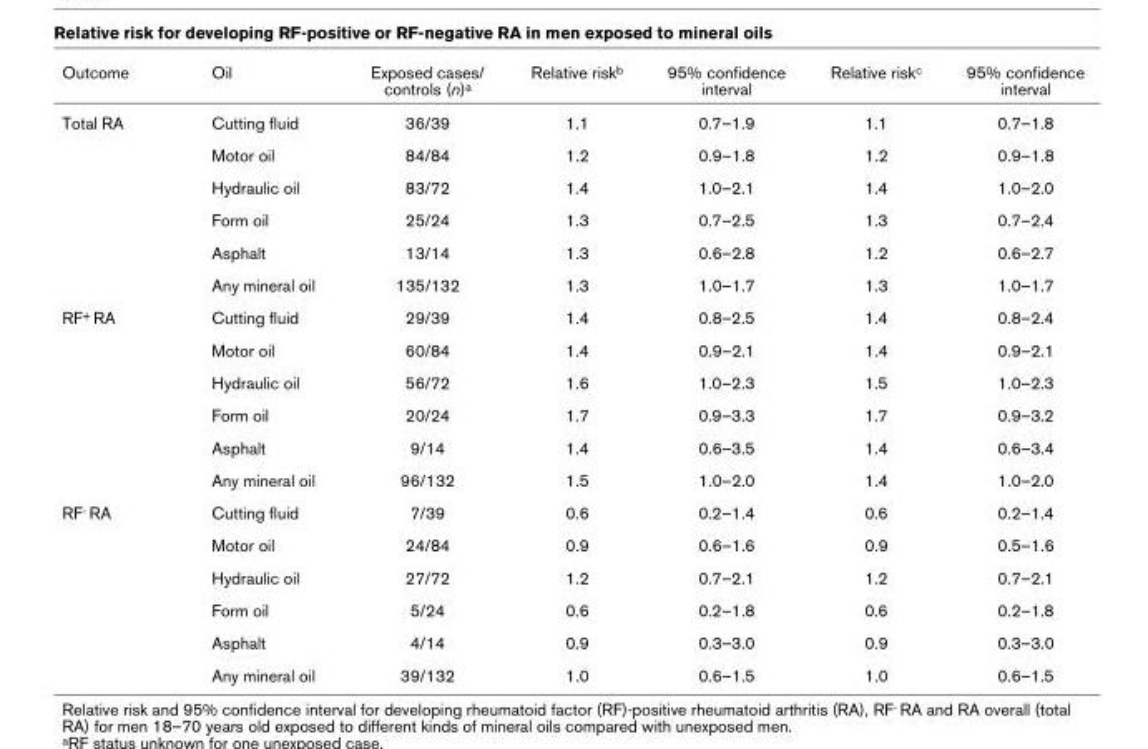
<table><thead><tr><td>Outcome</td><td>Oil</td><td>Exposed cases/ controls (n)a</td><td>Relative riskb</td><td>95% confidence interval</td><td>Relative riskc</td><td>95% confidence interval</td></tr></thead><tbody><tr><td rowspan="6">Total RA</td><td>Cutting fluid</td><td>36/39</td><td>1.1</td><td>0.7–1.9</td><td>1.1</td><td>0.7–1.8</td></tr><tr><td>Motor oil</td><td>84/84</td><td>1.2</td><td>0.9–1.8</td><td>1.2</td><td>0.9–1.8</td></tr><tr><td>Hydraulic oil</td><td>83/72</td><td>1.4</td><td>1.0–2.1</td><td>1.4</td><td>1.0–2.0</td></tr><tr><td>Form oil</td><td>25/24</td><td>1.3</td><td>0.7–2.5</td><td>1.3</td><td>0.7–2.4</td></tr><tr><td>Asphalt</td><td>13/14</td><td>1.3</td><td>0.6–2.8</td><td>1.2</td><td>0.6–2.7</td></tr><tr><td>Any mineral oil</td><td>135/132</td><td>1.3</td><td>1.0–1.7</td><td>1.3</td><td>1.0–1.7</td></tr><tr><td rowspan="6">RF+ RA</td><td>Cutting fluid</td><td>29/39</td><td>1.4</td><td>0.8–2.5</td><td>1.4</td><td>0.8–2.4</td></tr><tr><td>Motor oil</td><td>60/84</td><td>1.4</td><td>0.9–2.1</td><td>1.4</td><td>0.9–2.1</td></tr><tr><td>Hydraulic oil</td><td>56/72</td><td>1.6</td><td>1.0–2.3</td><td>1.5</td><td>1.0–2.3</td></tr><tr><td>Form oil</td><td>20/24</td><td>1.7</td><td>0.9–3.3</td><td>1.7</td><td>0.9–3.2</td></tr><tr><td>Asphalt</td><td>9/14</td><td>1.4</td><td>0.6–3.5</td><td>1.4</td><td>0.6–3.4</td></tr><tr><td>Any mineral oil</td><td>96/132</td><td>1.5</td><td>1.0–2.0</td><td>1.4</td><td>1.0–2.0</td></tr><tr><td rowspan="6">RF- RA</td><td>Cutting fluid</td><td>7/39</td><td>0.6</td><td>0.2–1.4</td><td>0.6</td><td>0.2–1.4</td></tr><tr><td>Motor oil</td><td>24/84</td><td>0.9</td><td>0.6–1.6</td><td>0.9</td><td>0.5–1.6</td></tr><tr><td>Hydraulic oil</td><td>27/72</td><td>1.2</td><td>0.7–2.1</td><td>1.2</td><td>0.7–2.1</td></tr><tr><td>Form oil</td><td>5/24</td><td>0.6</td><td>0.2–1.8</td><td>0.6</td><td>0.2–1.8</td></tr><tr><td>Asphalt</td><td>4/14</td><td>0.9</td><td>0.3–3.0</td><td>0.9</td><td>0.3–3.0</td></tr><tr><td>Any mineral oil</td><td>39/132</td><td>1.0</td><td>0.6–1.5</td><td>1.0</td><td>0.6–1.5</td></tr></tbody></table>